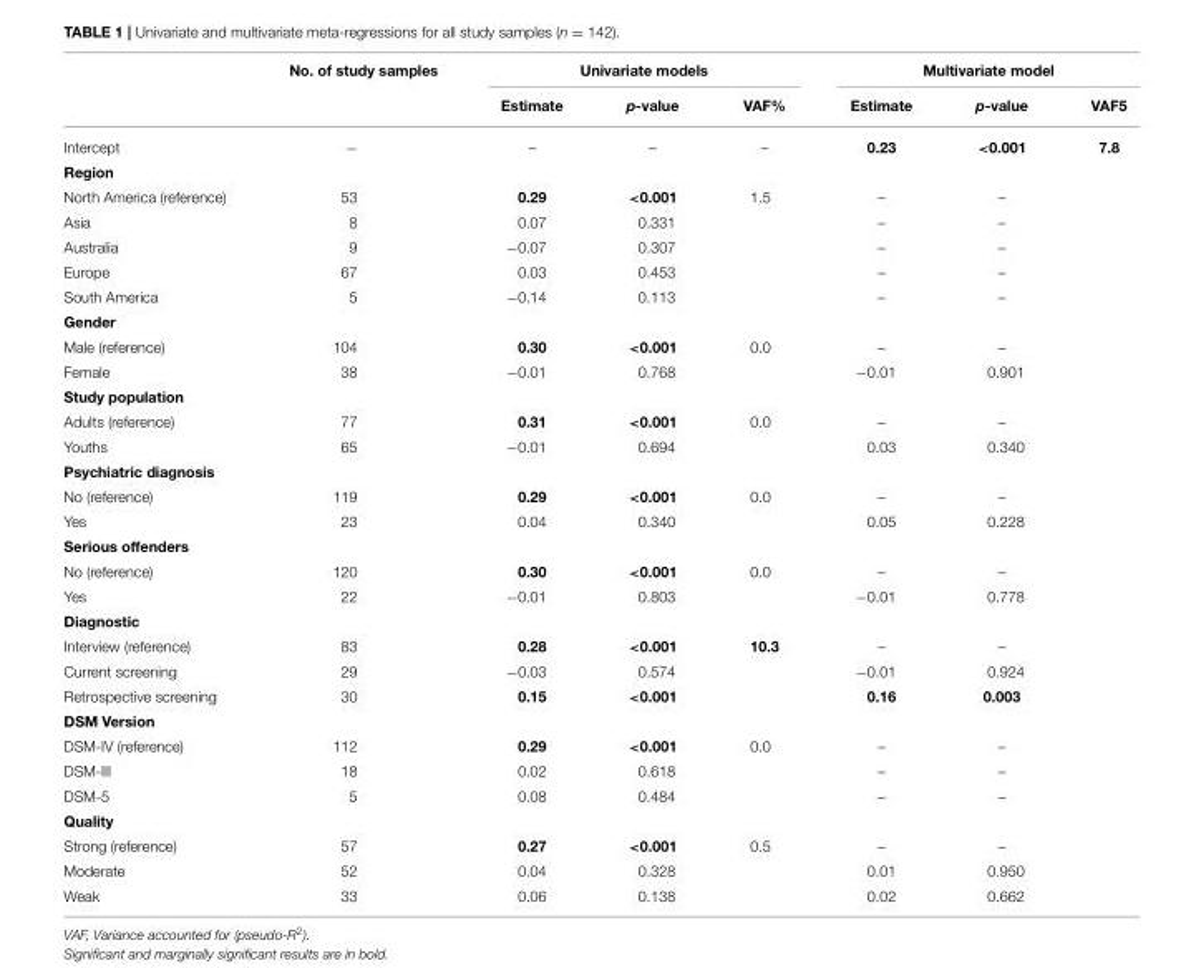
<table><thead><tr><td rowspan="2"></td><td rowspan="2">No. of study samples</td><td colspan="3">Univariate models</td><td colspan="3">Multivariate model</td></tr><tr><td>Estimate</td><td>p-value</td><td>VAF%</td><td>Estimate</td><td>p-value</td><td>VAF5</td></tr></thead><tbody><tr><td>Intercept</td><td>−</td><td>–</td><td>–</td><td>–</td><td>0.23</td><td>&lt;0.001</td><td>7.8</td></tr><tr><td colspan="8">Region</td></tr><tr><td>North America (reference)</td><td>53</td><td>0.29</td><td>&lt;0.001</td><td>1.5</td><td>–</td><td>–</td><td></td></tr><tr><td>Asia</td><td>8</td><td>0.07</td><td>0.331</td><td></td><td>–</td><td>–</td><td></td></tr><tr><td>Australia</td><td>9</td><td>−0.07</td><td>0.307</td><td></td><td>–</td><td>–</td><td></td></tr><tr><td>Europe</td><td>67</td><td>0.03</td><td>0.453</td><td></td><td>–</td><td>–</td><td></td></tr><tr><td>South America</td><td>5</td><td>−0.14</td><td>0.113</td><td></td><td>–</td><td>–</td><td></td></tr><tr><td colspan="8">Gender</td></tr><tr><td>Male (reference)</td><td>104</td><td>0.30</td><td>&lt;0.001</td><td>0.0</td><td>–</td><td>–</td><td></td></tr><tr><td>Female</td><td>38</td><td>−0.01</td><td>0.768</td><td></td><td>−0.01</td><td>0.901</td><td></td></tr><tr><td colspan="8">Study population</td></tr><tr><td>Adults (reference)</td><td>77</td><td>0.31</td><td>&lt;0.001</td><td>0.0</td><td>–</td><td>–</td><td></td></tr><tr><td>Youths</td><td>65</td><td>−0.01</td><td>0.694</td><td></td><td>0.03</td><td>0.340</td><td></td></tr><tr><td colspan="8">Psychiatric diagnosis</td></tr><tr><td>No (reference)</td><td>119</td><td>0.29</td><td>&lt;0.001</td><td>0.0</td><td>–</td><td>–</td><td></td></tr><tr><td>Yes</td><td>23</td><td>0.04</td><td>0.340</td><td></td><td>0.05</td><td>0.228</td><td></td></tr><tr><td colspan="8">Serious offenders</td></tr><tr><td>No (reference)</td><td>120</td><td>0.30</td><td>&lt;0.001</td><td>0.0</td><td>–</td><td>–</td><td></td></tr><tr><td>Yes</td><td>22</td><td>−0.01</td><td>0.803</td><td></td><td>−0.01</td><td>0.778</td><td></td></tr><tr><td colspan="8">Diagnostic</td></tr><tr><td>Interview (reference)</td><td>83</td><td>0.28</td><td>&lt;0.001</td><td>10.3</td><td>–</td><td>–</td><td></td></tr><tr><td>Current screening</td><td>29</td><td>−0.03</td><td>0.574</td><td></td><td>−0.01</td><td>0.924</td><td></td></tr><tr><td>Retrospective screening</td><td>30</td><td>0.15</td><td>&lt;0.001</td><td></td><td>0.16</td><td>0.003</td><td></td></tr><tr><td colspan="8">DSM Version</td></tr><tr><td>DSM-IV (reference)</td><td>112</td><td>0.29</td><td>&lt;0.001</td><td>0.0</td><td>–</td><td>–</td><td></td></tr><tr><td>DSM-III</td><td>18</td><td>0.02</td><td>0.618</td><td></td><td>–</td><td>–</td><td></td></tr><tr><td>DSM-5</td><td>5</td><td>0.08</td><td>0.484</td><td></td><td>–</td><td>–</td><td></td></tr><tr><td colspan="8">Quality</td></tr><tr><td>Strong (reference)</td><td>57</td><td>0.27</td><td>&lt;0.001</td><td>0.5</td><td>–</td><td>–</td><td></td></tr><tr><td>Moderate</td><td>52</td><td>0.04</td><td>0.328</td><td></td><td>0.01</td><td>0.950</td><td></td></tr><tr><td>Weak</td><td>33</td><td>0.06</td><td>0.138</td><td></td><td>0.02</td><td>0.662</td><td></td></tr></tbody></table>